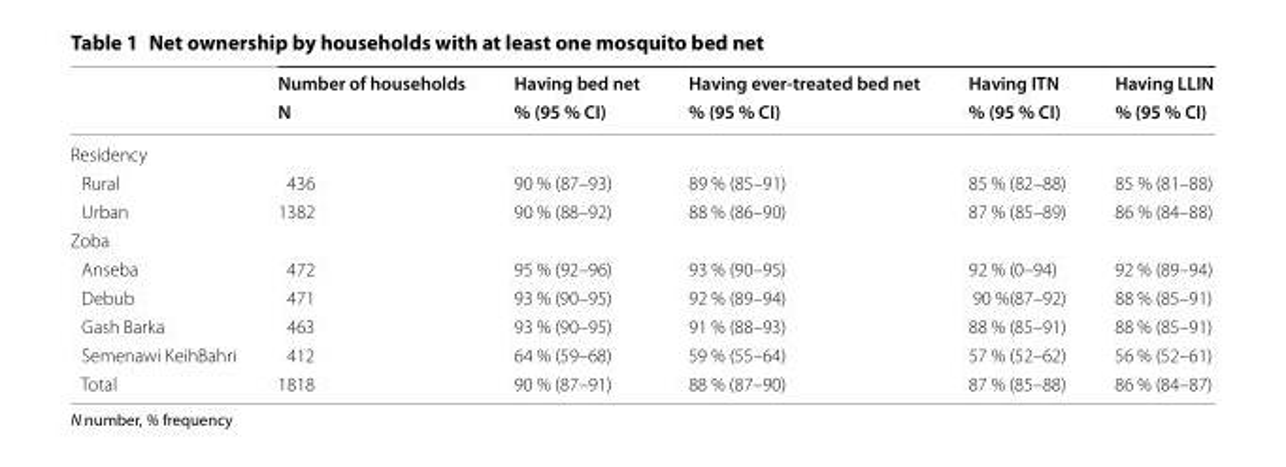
<table><thead><tr><td rowspan="2"></td><td rowspan="2">Number of households N</td><td rowspan="2">Having bed net % (95 % CI)</td><td rowspan="2">Having ever-treated bed net % (95 % CI)</td><td rowspan="2">Having ITN % (95 % CI)</td><td rowspan="2">Having LLIN % (95 % CI)</td></tr><tr></tr></thead><tbody><tr><td colspan="6">Residency</td></tr><tr><td>Rural</td><td>436</td><td>90 % (87–93)</td><td>89 % (85–91)</td><td>85 % (82–88)</td><td>85 % (81–88)</td></tr><tr><td>Urban</td><td>1382</td><td>90 % (88–92)</td><td>88 % (86–90)</td><td>87 % (85–89)</td><td>86 % (84–88)</td></tr><tr><td colspan="6">Zoba</td></tr><tr><td>Anseba</td><td>472</td><td>95 % (92–96)</td><td>93 % (90–95)</td><td>92 % (0–94)</td><td>92 % (89–94)</td></tr><tr><td>Debub</td><td>471</td><td>93 % (90–95)</td><td>92 % (89–94)</td><td>90 %(87–92)</td><td>88 % (85–91)</td></tr><tr><td>Gash Barka</td><td>463</td><td>93 % (90–95)</td><td>91 % (88–93)</td><td>88 % (85–91)</td><td>88 % (85–91)</td></tr><tr><td>Semenawi KeihBahri</td><td>412</td><td>64 % (59–68)</td><td>59 % (55–64)</td><td>57 % (52–62)</td><td>56 % (52–61)</td></tr><tr><td>Total</td><td>1818</td><td>90 % (87–91)</td><td>88 % (87–90)</td><td>87 % (85–88)</td><td>86 % (84–87)</td></tr></tbody></table>